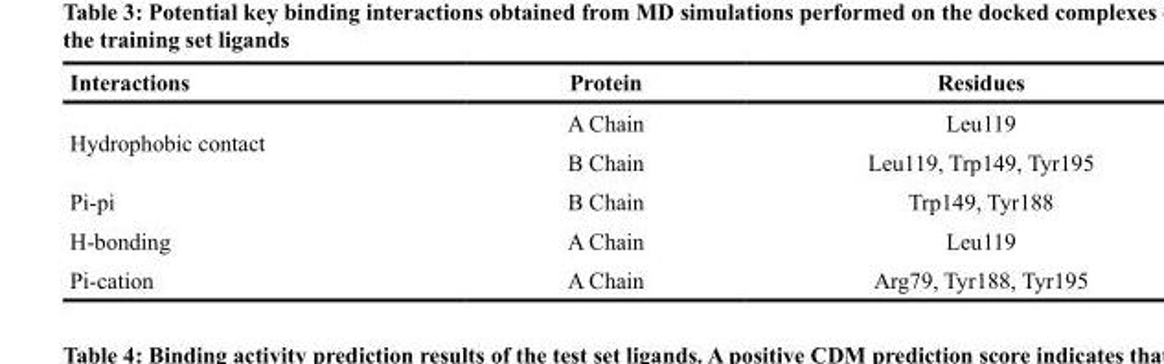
<table><thead><tr><td>Interactions</td><td>Protein</td><td>Residues</td></tr></thead><tbody><tr><td rowspan="2">Hydrophobic contact</td><td>A Chain</td><td>Leu119</td></tr><tr><td>B Chain</td><td>Leu119, Trp149, Tyr195</td></tr><tr><td>Pi-pi</td><td>B Chain</td><td>Trp149, Tyr188</td></tr><tr><td>H-bonding</td><td>A Chain</td><td>Leu119</td></tr><tr><td>Pi-cation</td><td>A Chain</td><td>Arg79, Tyr188, Tyr195</td></tr></tbody></table>